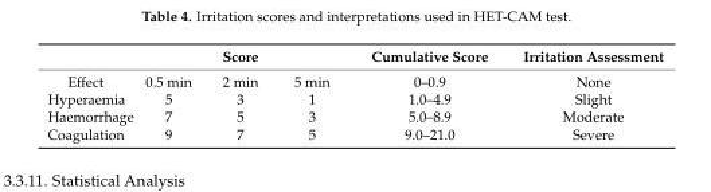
<table><thead><tr><td rowspan="2">Effect</td><td colspan="3">Score</td><td rowspan="2">Cumulative Score 0–0.9</td><td rowspan="2">Irritation Assessment None</td></tr><tr><td>0.5 min</td><td>2 min</td><td>5 min</td></tr></thead><tbody><tr><td>Hyperaemia</td><td>5</td><td>3</td><td>1</td><td>1.0–4.9</td><td>Slight</td></tr><tr><td>Haemorrhage</td><td>7</td><td>5</td><td>3</td><td>5.0–8.9</td><td>Moderate</td></tr><tr><td>Coagulation</td><td>9</td><td>7</td><td>5</td><td>9.0–21.0</td><td>Severe</td></tr></tbody></table>